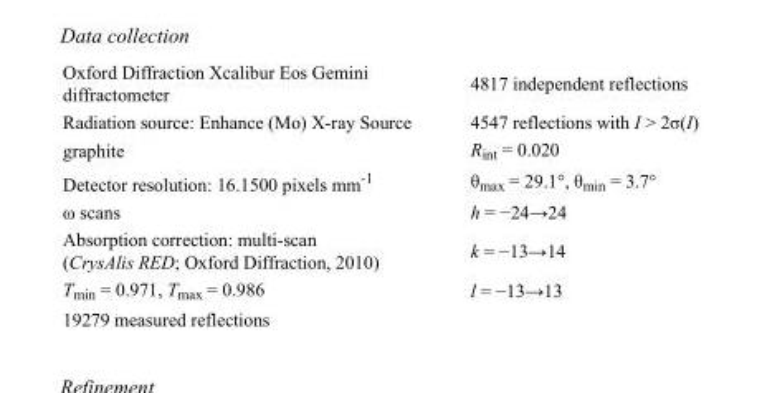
<table><tbody><tr><td>Oxford Diffraction Xcalibur Eos Gemini diffractometer</td><td>4817 independent reflections</td></tr><tr><td>Radiation source: Enhance (Mo) X-ray Source</td><td>4547 reflections with I &gt; 2σ(I)</td></tr><tr><td>graphite</td><td>R<sub>int</sub> = 0.020</td></tr><tr><td>Detector resolution: 16.1500 pixels mm<sup>-1</sup></td><td>θ<sub>max</sub> = 29.1°, θ<sub>min</sub> = 3.7°</td></tr><tr><td>ω scans</td><td>h = −24→24</td></tr><tr><td>Absorption correction: multi-scan (CrysAlis RED; Oxford Diffraction, 2010)</td><td>k = −13→14</td></tr><tr><td>T<sub>min</sub> = 0.971, T<sub>max</sub> = 0.986</td><td>l = −13→13</td></tr><tr><td>19279 measured reflections</td><td></td></tr></tbody></table>